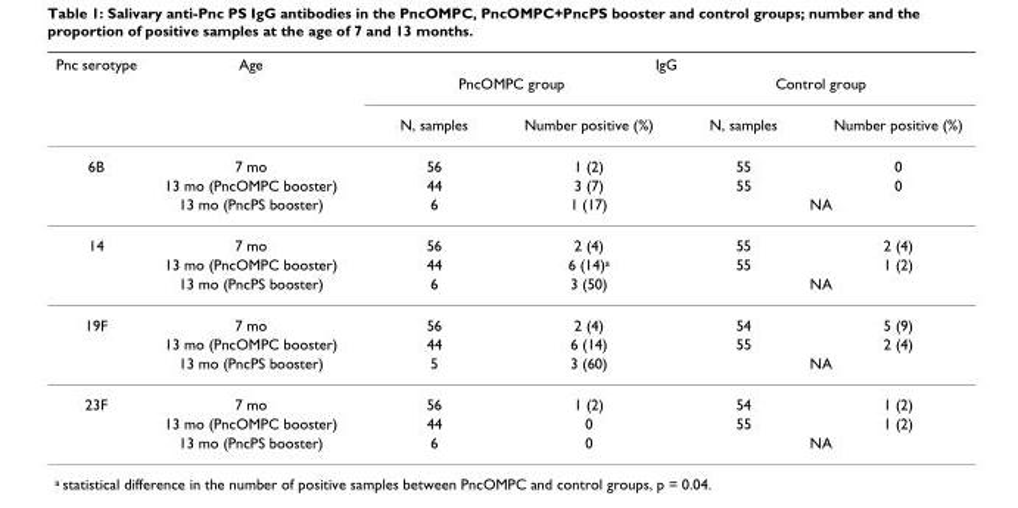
<table><thead><tr><td rowspan="3">Pnc serotype</td><td rowspan="3">Age</td><td colspan="4">IgG</td></tr><tr><td colspan="2">PncOMPC group</td><td colspan="2">Control group</td></tr><tr><td>N, samples</td><td>Number positive (%)</td><td>N, samples</td><td>Number positive (%)</td></tr></thead><tbody><tr><td rowspan="3">6B</td><td>7 mo</td><td>56</td><td>1 (2)</td><td>55</td><td>0</td></tr><tr><td>13 mo (PncOMPC booster)</td><td>44</td><td>3 (7)</td><td>55</td><td>0</td></tr><tr><td>13 mo (PncPS booster)</td><td>6</td><td>1 (17)</td><td colspan="2">NA</td></tr><tr><td rowspan="3">14</td><td>7 mo</td><td>56</td><td>2 (4)</td><td>55</td><td>2 (4)</td></tr><tr><td>13 mo (PncOMPC booster)</td><td>44</td><td>6 (14)<sup>a</sup></td><td>55</td><td>1 (2)</td></tr><tr><td>13 mo (PncPS booster)</td><td>6</td><td>3 (50)</td><td colspan="2">NA</td></tr><tr><td rowspan="3">19F</td><td>7 mo</td><td>56</td><td>2 (4)</td><td>54</td><td>5 (9)</td></tr><tr><td>13 mo (PncOMPC booster)</td><td>44</td><td>6 (14)</td><td>55</td><td>2 (4)</td></tr><tr><td>13 mo (PncPS booster)</td><td>5</td><td>3 (60)</td><td colspan="2">NA</td></tr><tr><td rowspan="3">23F</td><td>7 mo</td><td>56</td><td>1 (2)</td><td>54</td><td>1 (2)</td></tr><tr><td>13 mo (PncOMPC booster)</td><td>44</td><td>0</td><td>55</td><td>1 (2)</td></tr><tr><td>13 mo (PncPS booster)</td><td>6</td><td>0</td><td colspan="2">NA</td></tr></tbody></table>